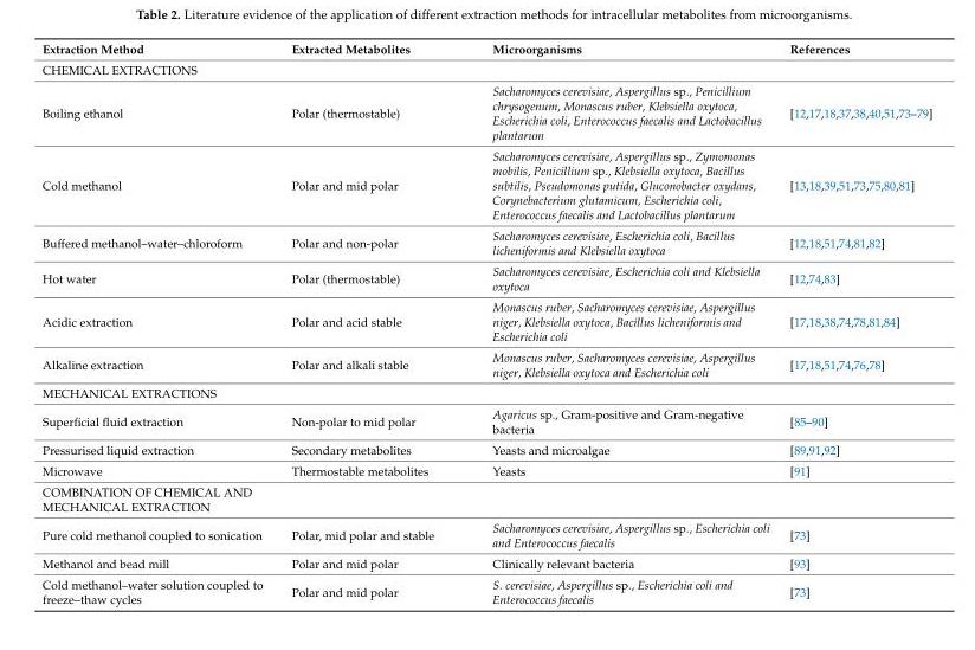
<table><thead><tr><td>Extraction Method</td><td>Extracted Metabolites</td><td>Microorganisms</td><td>References</td></tr></thead><tbody><tr><td colspan="4">CHEMICAL EXTRACTIONS</td></tr><tr><td>Boiling ethanol</td><td>Polar (thermostable)</td><td>Sacharomyces cerevisiae, Aspergillus sp., Penicillium chrysogenum, Monascus ruber, Klebsiella oxytoca, Escherichia coli, Enterococcus faecalis and Lactobacillus plantarum</td><td>[12,17,18,37,38,40,51,73–79]</td></tr><tr><td>Cold methanol</td><td>Polar and mid polar</td><td>Sacharomyces cerevisiae, Aspergillus sp., Zymomonas mobilis, Penicillium sp., Klebsiella oxytoca, Bacillus subtilis, Pseudomonas putida, Gluconobacter oxydans, Corynebacterium glutamicum, Escherichia coli, Enterococcus faecalis and Lactobacillus plantarum</td><td>[13,18,39,51,73,75,80,81]</td></tr><tr><td>Buffered methanol–water–chloroform</td><td>Polar and non-polar</td><td>Sacharomyces cerevisiae, Escherichia coli, Bacillus licheniformis and Klebsiella oxytoca</td><td>[12,18,51,74,81,82]</td></tr><tr><td>Hot water</td><td>Polar (thermostable)</td><td>Sacharomyces cerevisiae, Escherichia coli and Klebsiella oxytoca</td><td>[12,74,83]</td></tr><tr><td>Acidic extraction</td><td>Polar and acid stable</td><td>Monascus ruber, Sacharomyces cerevisiae, Aspergillus niger, Klebsiella oxytoca, Bacillus licheniformis and Escherichia coli</td><td>[17,18,38,74,78,81,84]</td></tr><tr><td>Alkaline extraction</td><td>Polar and alkali stable</td><td>Monascus ruber, Sacharomyces cerevisiae, Aspergillus niger, Klebsiella oxytoca and Escherichia coli</td><td>[17,18,51,74,76,78]</td></tr><tr><td colspan="4">MECHANICAL EXTRACTIONS</td></tr><tr><td>Superficial fluid extraction</td><td>Non-polar to mid polar</td><td>Agaricus sp., Gram-positive and Gram-negative bacteria</td><td>[85–90]</td></tr><tr><td>Pressurised liquid extraction</td><td>Secondary metabolites</td><td>Yeasts and microalgae</td><td>[89,91,92]</td></tr><tr><td>Microwave</td><td>Thermostable metabolites</td><td>Yeasts</td><td>[91]</td></tr><tr><td colspan="4">COMBINATION OF CHEMICAL AND MECHANICAL EXTRACTION</td></tr><tr><td>Pure cold methanol coupled to sonication</td><td>Polar, mid polar and stable</td><td>Sacharomyces cerevisiae, Aspergillus sp., Escherichia coli and Enterococcus faecalis</td><td>[73]</td></tr><tr><td>Methanol and bead mill</td><td>Polar and mid polar</td><td>Clinically relevant bacteria</td><td>[93]</td></tr><tr><td>Cold methanol–water solution coupled to freeze–thaw cycles</td><td>Polar and mid polar</td><td>S. cerevisiae, Aspergillus sp., Escherichia coli and Enterococcus faecalis</td><td>[73]</td></tr></tbody></table>